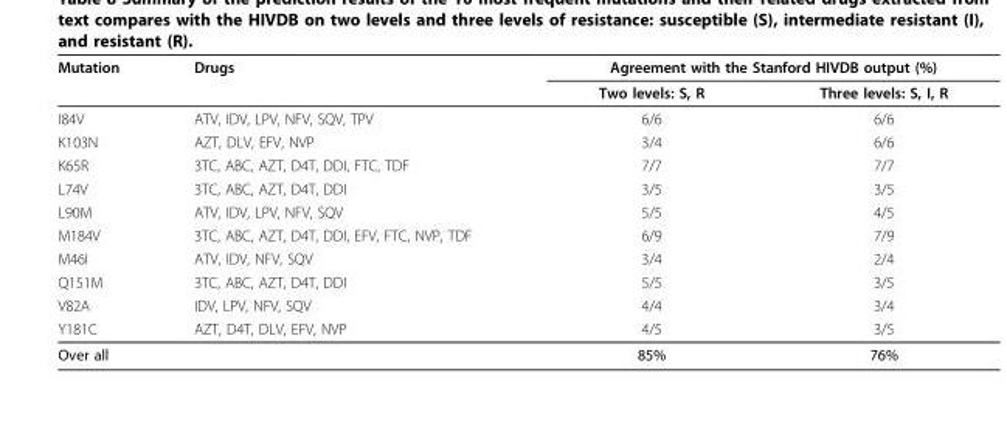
<table><thead><tr><td rowspan="2">Mutation</td><td rowspan="2">Drugs</td><td colspan="2">Agreement with the Stanford HIVDB output (%)</td></tr><tr><td>Two levels: S, R</td><td>Three levels: S, I, R</td></tr></thead><tbody><tr><td>I84V</td><td>ATV, IDV, LPV, NFV, SQV, TPV</td><td>6/6</td><td>6/6</td></tr><tr><td>K103N</td><td>AZT, DLV, EFV, NVP</td><td>3/4</td><td>6/6</td></tr><tr><td>K65R</td><td>3TC, ABC, AZT, D4T, DDI, FTC, TDF</td><td>7/7</td><td>7/7</td></tr><tr><td>L74V</td><td>3TC, ABC, AZT, D4T, DDI</td><td>3/5</td><td>3/5</td></tr><tr><td>L90M</td><td>ATV, IDV, LPV, NFV, SQV</td><td>5/5</td><td>4/5</td></tr><tr><td>M184V</td><td>3TC, ABC, AZT, D4T, DDI, EFV, FTC, NVP, TDF</td><td>6/9</td><td>7/9</td></tr><tr><td>M46I</td><td>ATV, IDV, NFV, SQV</td><td>3/4</td><td>2/4</td></tr><tr><td>Q151M</td><td>3TC, ABC, AZT, D4T, DDI</td><td>5/5</td><td>3/5</td></tr><tr><td>V82A</td><td>IDV, LPV, NFV, SQV</td><td>4/4</td><td>3/4</td></tr><tr><td>Y181C</td><td>AZT, D4T, DLV, EFV, NVP</td><td>4/5</td><td>3/5</td></tr><tr><td colspan="2">Over all</td><td>85%</td><td>76%</td></tr></tbody></table>